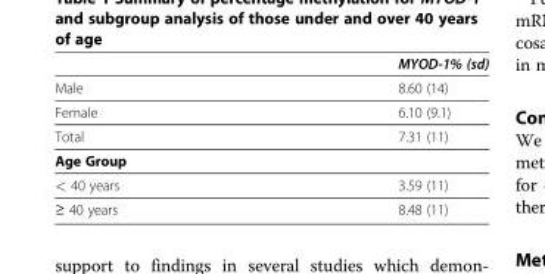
<table><thead><tr><td></td><td>MYOD-1% (sd)</td></tr></thead><tbody><tr><td>Male</td><td>8.60 (14)</td></tr><tr><td>Female</td><td>6.10 (9.1)</td></tr><tr><td>Total</td><td>7.31 (11)</td></tr><tr><td colspan="2">Age Group</td></tr><tr><td>&lt; 40 years</td><td>3.59 (11)</td></tr><tr><td>≥ 40 years</td><td>8.48 (11)</td></tr></tbody></table>